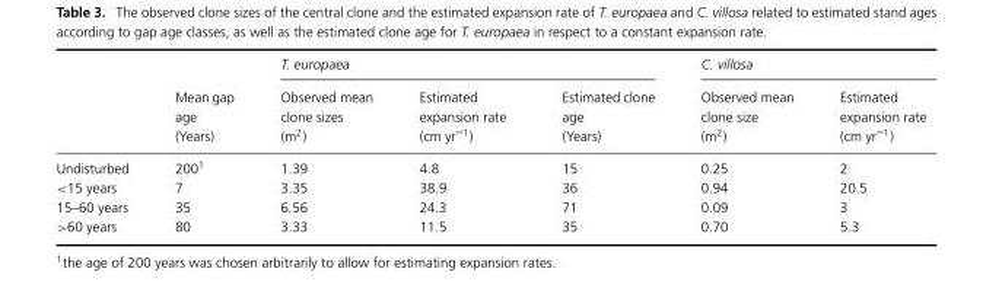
<table><thead><tr><td rowspan="2"></td><td rowspan="2">Mean gap age (Years)</td><td colspan="3">T. europaea</td><td colspan="2">C. villosa</td></tr><tr><td>Observed mean clone sizes (m<sup>2</sup>)</td><td>Estimated expansion rate (cm yr<sup>–1</sup>)</td><td>Estimated clone age (Years)</td><td>Observed mean clone size (m<sup>2</sup>)</td><td>Estimated expansion rate (cm yr<sup>–1</sup>)</td></tr></thead><tbody><tr><td>Undisturbed</td><td>200<sup>1</sup></td><td>1.39</td><td>4.8</td><td>15</td><td>0.25</td><td>2</td></tr><tr><td>&lt;15 years</td><td>7</td><td>3.35</td><td>38.9</td><td>36</td><td>0.94</td><td>20.5</td></tr><tr><td>15–60 years</td><td>35</td><td>6.56</td><td>24.3</td><td>71</td><td>0.09</td><td>3</td></tr><tr><td>&gt;60 years</td><td>80</td><td>3.33</td><td>11.5</td><td>35</td><td>0.70</td><td>5.3</td></tr></tbody></table>